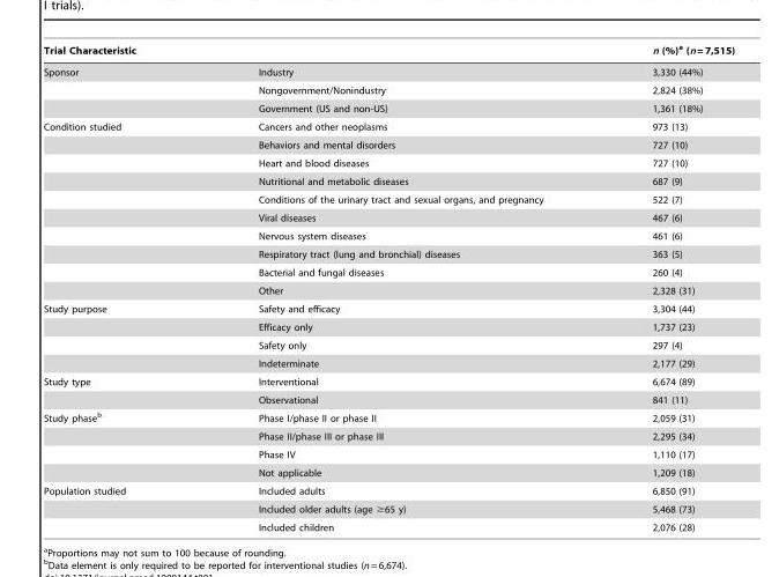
<table><thead><tr><td colspan="2">Trial Characteristic</td><td rowspan="2">n (%)<sup>a</sup> (n = 7,515) 3,330 (44%)</td></tr><tr><td>Sponsor</td><td>Industry</td></tr></thead><tbody><tr><td></td><td>Nongovernment/Nonindustry</td><td>2,824 (38%)</td></tr><tr><td></td><td>Government (US and non-US)</td><td>1,361 (18%)</td></tr><tr><td rowspan="10">Condition studied</td><td>Cancers and other neoplasms</td><td>973 (13)</td></tr><tr><td>Behaviors and mental disorders</td><td>727 (10)</td></tr><tr><td>Heart and blood diseases</td><td>727 (10)</td></tr><tr><td>Nutritional and metabolic diseases</td><td>687 (9)</td></tr><tr><td>Conditions of the urinary tract and sexual organs, and pregnancy</td><td>522 (7)</td></tr><tr><td>Viral diseases</td><td>467 (6)</td></tr><tr><td>Nervous system diseases</td><td>461 (6)</td></tr><tr><td>Respiratory tract (lung and bronchial) diseases</td><td>363 (5)</td></tr><tr><td>Bacterial and fungal diseases</td><td>260 (4)</td></tr><tr><td>Other</td><td>2,328 (31)</td></tr><tr><td rowspan="4">Study purpose</td><td>Safety and efficacy</td><td>3,304 (44)</td></tr><tr><td>Efficacy only</td><td>1,737 (23)</td></tr><tr><td>Safety only</td><td>297 (4)</td></tr><tr><td>Indeterminate</td><td>2,177 (29)</td></tr><tr><td rowspan="2">Study type</td><td>Interventional</td><td>6,674 (89)</td></tr><tr><td>Observational</td><td>841 (11)</td></tr><tr><td rowspan="4">Study phase<sup>b</sup></td><td>Phase I/phase II or phase II</td><td>2,059 (31)</td></tr><tr><td>Phase II/phase III or phase III</td><td>2,295 (34)</td></tr><tr><td>Phase IV</td><td>1,110 (17)</td></tr><tr><td>Not applicable</td><td>1,209 (18)</td></tr><tr><td rowspan="3">Population studied</td><td>Included adults</td><td>6,850 (91)</td></tr><tr><td>Included older adults (age ≥65 y)</td><td>5,468 (73)</td></tr><tr><td>Included children</td><td>2,076 (28)</td></tr></tbody></table>